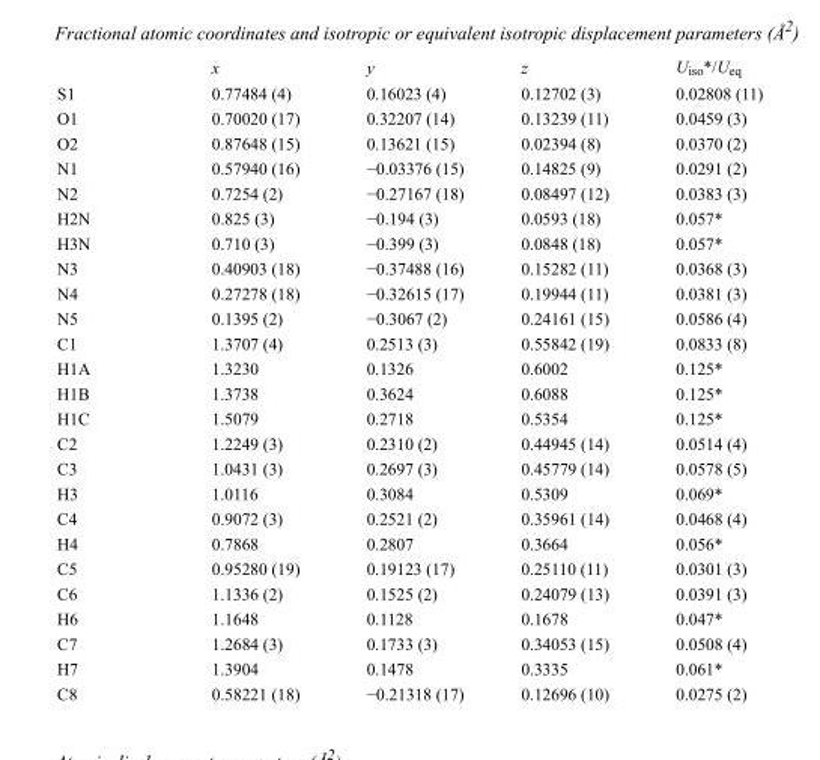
<table><thead><tr><td></td><td>x</td><td>y</td><td>z</td><td>U<sub>iso</sub>*/U<sub>eq</sub></td></tr></thead><tbody><tr><td>S1</td><td>0.77484 (4)</td><td>0.16023 (4)</td><td>0.12702 (3)</td><td>0.02808 (11)</td></tr><tr><td>O1</td><td>0.70020 (17)</td><td>0.32207 (14)</td><td>0.13239 (11)</td><td>0.0459 (3)</td></tr><tr><td>O2</td><td>0.87648 (15)</td><td>0.13621 (15)</td><td>0.02394 (8)</td><td>0.0370 (2)</td></tr><tr><td>N1</td><td>0.57940 (16)</td><td>−0.03376 (15)</td><td>0.14825 (9)</td><td>0.0291 (2)</td></tr><tr><td>N2</td><td>0.7254 (2)</td><td>−0.27167 (18)</td><td>0.08497 (12)</td><td>0.0383 (3)</td></tr><tr><td>H2N</td><td>0.825 (3)</td><td>−0.194 (3)</td><td>0.0593 (18)</td><td>0.057*</td></tr><tr><td>H3N</td><td>0.710 (3)</td><td>−0.399 (3)</td><td>0.0848 (18)</td><td>0.057*</td></tr><tr><td>N3</td><td>0.40903 (18)</td><td>−0.37488 (16)</td><td>0.15282 (11)</td><td>0.0368 (3)</td></tr><tr><td>N4</td><td>0.27278 (18)</td><td>−0.32615 (17)</td><td>0.19944 (11)</td><td>0.0381 (3)</td></tr><tr><td>N5</td><td>0.1395 (2)</td><td>−0.3067 (2)</td><td>0.24161 (15)</td><td>0.0586 (4)</td></tr><tr><td>C1</td><td>1.3707 (4)</td><td>0.2513 (3)</td><td>0.55842 (19)</td><td>0.0833 (8)</td></tr><tr><td>H1A</td><td>1.3230</td><td>0.1326</td><td>0.6002</td><td>0.125*</td></tr><tr><td>H1B</td><td>1.3738</td><td>0.3624</td><td>0.6088</td><td>0.125*</td></tr><tr><td>H1C</td><td>1.5079</td><td>0.2718</td><td>0.5354</td><td>0.125*</td></tr><tr><td>C2</td><td>1.2249 (3)</td><td>0.2310 (2)</td><td>0.44945 (14)</td><td>0.0514 (4)</td></tr><tr><td>C3</td><td>1.0431 (3)</td><td>0.2697 (3)</td><td>0.45779 (14)</td><td>0.0578 (5)</td></tr><tr><td>H3</td><td>1.0116</td><td>0.3084</td><td>0.5309</td><td>0.069*</td></tr><tr><td>C4</td><td>0.9072 (3)</td><td>0.2521 (2)</td><td>0.35961 (14)</td><td>0.0468 (4)</td></tr><tr><td>H4</td><td>0.7868</td><td>0.2807</td><td>0.3664</td><td>0.056*</td></tr><tr><td>C5</td><td>0.95280 (19)</td><td>0.19123 (17)</td><td>0.25110 (11)</td><td>0.0301 (3)</td></tr><tr><td>C6</td><td>1.1336 (2)</td><td>0.1525 (2)</td><td>0.24079 (13)</td><td>0.0391 (3)</td></tr><tr><td>H6</td><td>1.1648</td><td>0.1128</td><td>0.1678</td><td>0.047*</td></tr><tr><td>C7</td><td>1.2684 (3)</td><td>0.1733 (3)</td><td>0.34053 (15)</td><td>0.0508 (4)</td></tr><tr><td>H7</td><td>1.3904</td><td>0.1478</td><td>0.3335</td><td>0.061*</td></tr><tr><td>C8</td><td>0.58221 (18)</td><td>−0.21318 (17)</td><td>0.12696 (10)</td><td>0.0275 (2)</td></tr></tbody></table>